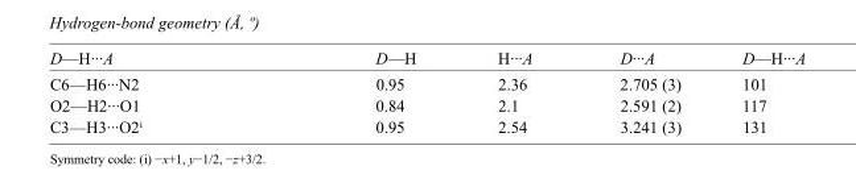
<table><tbody><tr><td>D—H···A</td><td>D—H</td><td>H···A</td><td>D···A</td><td>D—H···A</td></tr><tr><td>C6—H6···N2</td><td>0.95</td><td>2.36</td><td>2.705 (3)</td><td>101</td></tr><tr><td>O2—H2···O1</td><td>0.84</td><td>2.1</td><td>2.591 (2)</td><td>117</td></tr><tr><td>C3—H3···O2<sup>i</sup></td><td>0.95</td><td>2.54</td><td>3.241 (3)</td><td>131</td></tr></tbody></table>